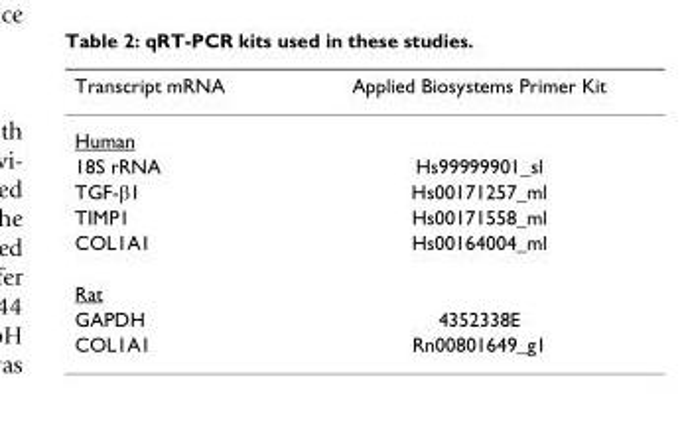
<table><thead><tr><td>Transcript mRNA</td><td>Applied Biosystems Primer Kit</td></tr></thead><tbody><tr><td colspan="2">Human</td></tr><tr><td>18S rRNA</td><td>Hs99999901_sl</td></tr><tr><td>TGF-β1</td><td>Hs00171257_ml</td></tr><tr><td>TIMP1</td><td>Hs00171558_ml</td></tr><tr><td>COL1A1</td><td>Hs00164004_ml</td></tr><tr><td colspan="2">Rat</td></tr><tr><td>GAPDH</td><td>4352338E</td></tr><tr><td>COL1A1</td><td>Rn00801649_g1</td></tr></tbody></table>